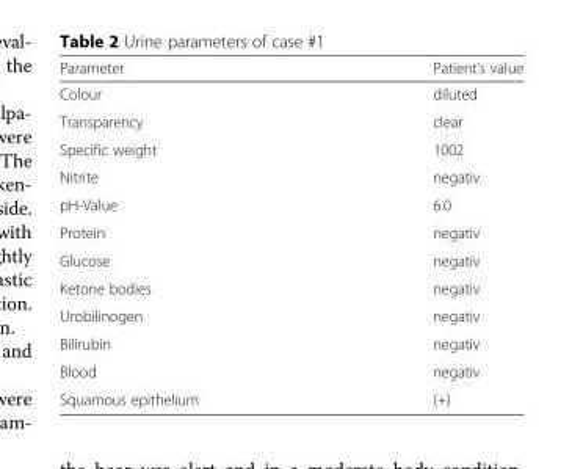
<table><thead><tr><td>Parameter</td><td>Patient’s value</td></tr></thead><tbody><tr><td>Colour</td><td>diluted</td></tr><tr><td>Transparency</td><td>clear</td></tr><tr><td>Specific weight</td><td>1002</td></tr><tr><td>Nitrite</td><td>negativ</td></tr><tr><td>pH-Value</td><td>6.0</td></tr><tr><td>Protein</td><td>negativ</td></tr><tr><td>Glucose</td><td>negativ</td></tr><tr><td>Ketone bodies</td><td>negativ</td></tr><tr><td>Urobilinogen</td><td>negativ</td></tr><tr><td>Bilirubin</td><td>negativ</td></tr><tr><td>Blood</td><td>negativ</td></tr><tr><td>Squamous epithelium</td><td>(+)</td></tr></tbody></table>